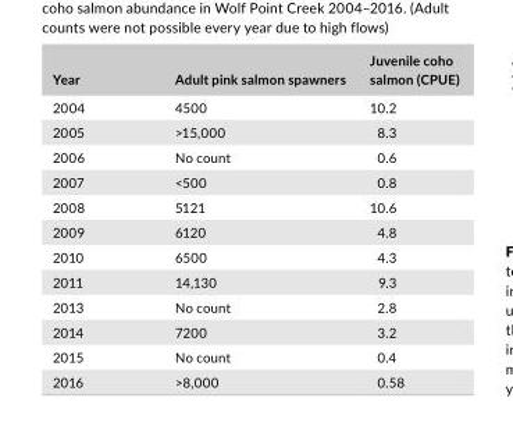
<table><thead><tr><td>Year</td><td>Adult pink salmon spawners</td><td>Juvenile coho salmon (CPUE)</td></tr></thead><tbody><tr><td>2004</td><td>4500</td><td>10.2</td></tr><tr><td>2005</td><td>&gt;15,000</td><td>8.3</td></tr><tr><td>2006</td><td>No count</td><td>0.6</td></tr><tr><td>2007</td><td>&lt;500</td><td>0.8</td></tr><tr><td>2008</td><td>5121</td><td>10.6</td></tr><tr><td>2009</td><td>6120</td><td>4.8</td></tr><tr><td>2010</td><td>6500</td><td>4.3</td></tr><tr><td>2011</td><td>14,130</td><td>9.3</td></tr><tr><td>2013</td><td>No count</td><td>2.8</td></tr><tr><td>2014</td><td>7200</td><td>3.2</td></tr><tr><td>2015</td><td>No count</td><td>0.4</td></tr><tr><td>2016</td><td>&gt;8,000</td><td>0.58</td></tr></tbody></table>